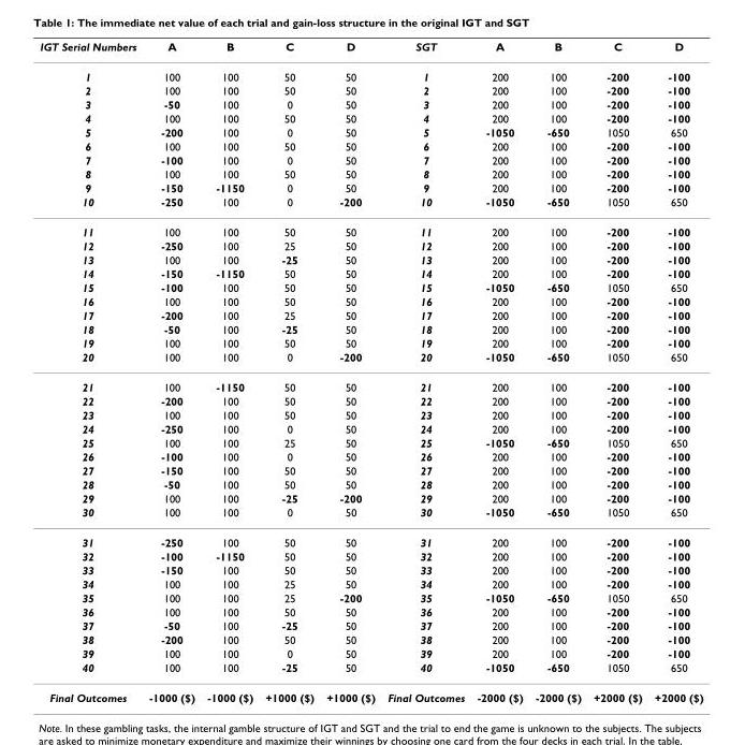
<table><thead><tr><td>IGT Serial Numbers</td><td>A</td><td>B</td><td>C</td><td>D</td><td>SGT</td><td>A</td><td>B</td><td>C</td><td>D</td></tr></thead><tbody><tr><td>1</td><td>100</td><td>100</td><td>50</td><td>50</td><td>1</td><td>200</td><td>100</td><td>-200</td><td>-100</td></tr><tr><td>2</td><td>100</td><td>100</td><td>50</td><td>50</td><td>2</td><td>200</td><td>100</td><td>-200</td><td>-100</td></tr><tr><td>3</td><td>-50</td><td>100</td><td>0</td><td>50</td><td>3</td><td>200</td><td>100</td><td>-200</td><td>-100</td></tr><tr><td>4</td><td>100</td><td>100</td><td>50</td><td>50</td><td>4</td><td>200</td><td>100</td><td>-200</td><td>-100</td></tr><tr><td>5</td><td>-200</td><td>100</td><td>0</td><td>50</td><td>5</td><td>-1050</td><td>-650</td><td>1050</td><td>650</td></tr><tr><td>6</td><td>100</td><td>100</td><td>50</td><td>50</td><td>6</td><td>200</td><td>100</td><td>-200</td><td>-100</td></tr><tr><td>7</td><td>-100</td><td>100</td><td>0</td><td>50</td><td>7</td><td>200</td><td>100</td><td>-200</td><td>-100</td></tr><tr><td>8</td><td>100</td><td>100</td><td>50</td><td>50</td><td>8</td><td>200</td><td>100</td><td>-200</td><td>-100</td></tr><tr><td>9</td><td>-150</td><td>-1150</td><td>0</td><td>50</td><td>9</td><td>200</td><td>100</td><td>-200</td><td>-100</td></tr><tr><td>10</td><td>-250</td><td>100</td><td>0</td><td>-200</td><td>10</td><td>-1050</td><td>-650</td><td>1050</td><td>650</td></tr><tr><td>11</td><td>100</td><td>100</td><td>50</td><td>50</td><td>11</td><td>200</td><td>100</td><td>-200</td><td>-100</td></tr><tr><td>12</td><td>-250</td><td>100</td><td>25</td><td>50</td><td>12</td><td>200</td><td>100</td><td>-200</td><td>-100</td></tr><tr><td>13</td><td>100</td><td>100</td><td>-25</td><td>50</td><td>13</td><td>200</td><td>100</td><td>-200</td><td>-100</td></tr><tr><td>14</td><td>-150</td><td>-1150</td><td>50</td><td>50</td><td>14</td><td>200</td><td>100</td><td>-200</td><td>-100</td></tr><tr><td>15</td><td>-100</td><td>100</td><td>50</td><td>50</td><td>15</td><td>-1050</td><td>-650</td><td>1050</td><td>650</td></tr><tr><td>16</td><td>100</td><td>100</td><td>50</td><td>50</td><td>16</td><td>200</td><td>100</td><td>-200</td><td>-100</td></tr><tr><td>17</td><td>-200</td><td>100</td><td>25</td><td>50</td><td>17</td><td>200</td><td>100</td><td>-200</td><td>-100</td></tr><tr><td>18</td><td>-50</td><td>100</td><td>-25</td><td>50</td><td>18</td><td>200</td><td>100</td><td>-200</td><td>-100</td></tr><tr><td>19</td><td>100</td><td>100</td><td>50</td><td>50</td><td>19</td><td>200</td><td>100</td><td>-200</td><td>-100</td></tr><tr><td>20</td><td>100</td><td>100</td><td>0</td><td>-200</td><td>20</td><td>-1050</td><td>-650</td><td>1050</td><td>650</td></tr><tr><td>21</td><td>100</td><td>-1150</td><td>50</td><td>50</td><td>21</td><td>200</td><td>100</td><td>-200</td><td>-100</td></tr><tr><td>22</td><td>-200</td><td>100</td><td>50</td><td>50</td><td>22</td><td>200</td><td>100</td><td>-200</td><td>-100</td></tr><tr><td>23</td><td>100</td><td>100</td><td>50</td><td>50</td><td>23</td><td>200</td><td>100</td><td>-200</td><td>-100</td></tr><tr><td>24</td><td>-250</td><td>100</td><td>0</td><td>50</td><td>24</td><td>200</td><td>100</td><td>-200</td><td>-100</td></tr><tr><td>25</td><td>100</td><td>100</td><td>25</td><td>50</td><td>25</td><td>-1050</td><td>-650</td><td>1050</td><td>650</td></tr><tr><td>26</td><td>-100</td><td>100</td><td>0</td><td>50</td><td>26</td><td>200</td><td>100</td><td>-200</td><td>-100</td></tr><tr><td>27</td><td>-150</td><td>100</td><td>50</td><td>50</td><td>27</td><td>200</td><td>100</td><td>-200</td><td>-100</td></tr><tr><td>28</td><td>-50</td><td>100</td><td>50</td><td>50</td><td>28</td><td>200</td><td>100</td><td>-200</td><td>-100</td></tr><tr><td>29</td><td>100</td><td>100</td><td>-25</td><td>-200</td><td>29</td><td>200</td><td>100</td><td>-200</td><td>-100</td></tr><tr><td>30</td><td>100</td><td>100</td><td>0</td><td>50</td><td>30</td><td>-1050</td><td>-650</td><td>1050</td><td>650</td></tr><tr><td>31</td><td>-250</td><td>100</td><td>50</td><td>50</td><td>31</td><td>200</td><td>100</td><td>-200</td><td>-100</td></tr><tr><td>32</td><td>-100</td><td>-1150</td><td>50</td><td>50</td><td>32</td><td>200</td><td>100</td><td>-200</td><td>-100</td></tr><tr><td>33</td><td>-150</td><td>100</td><td>50</td><td>50</td><td>33</td><td>200</td><td>100</td><td>-200</td><td>-100</td></tr><tr><td>34</td><td>100</td><td>100</td><td>25</td><td>50</td><td>34</td><td>200</td><td>100</td><td>-200</td><td>-100</td></tr><tr><td>35</td><td>100</td><td>100</td><td>25</td><td>-200</td><td>35</td><td>-1050</td><td>-650</td><td>1050</td><td>650</td></tr><tr><td>36</td><td>100</td><td>100</td><td>50</td><td>50</td><td>36</td><td>200</td><td>100</td><td>-200</td><td>-100</td></tr><tr><td>37</td><td>-50</td><td>100</td><td>-25</td><td>50</td><td>37</td><td>200</td><td>100</td><td>-200</td><td>-100</td></tr><tr><td>38</td><td>-200</td><td>100</td><td>50</td><td>50</td><td>38</td><td>200</td><td>100</td><td>-200</td><td>-100</td></tr><tr><td>39</td><td>100</td><td>100</td><td>0</td><td>50</td><td>39</td><td>200</td><td>100</td><td>-200</td><td>-100</td></tr><tr><td>40</td><td>100</td><td>100</td><td>-25</td><td>50</td><td>40</td><td>-1050</td><td>-650</td><td>1050</td><td>650</td></tr><tr><td>Final Outcomes</td><td>-1000 ($)</td><td>-1000 ($)</td><td>+1000 ($)</td><td>+1000 ($)</td><td>Final Outcomes</td><td>-2000 ($)</td><td>-2000 ($)</td><td>+2000 ($)</td><td>+2000 ($)</td></tr></tbody></table>